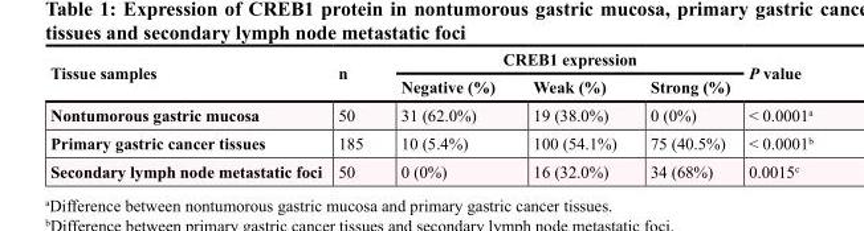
<table><thead><tr><td rowspan="2">Tissue samples</td><td rowspan="2">n</td><td colspan="3">CREB1 expression</td><td rowspan="2">P value</td></tr><tr><td>Negative (%)</td><td>Weak (%)</td><td>Strong (%)</td></tr></thead><tbody><tr><td>Nontumorous gastric mucosa</td><td>50</td><td>31 (62.0%)</td><td>19 (38.0%)</td><td>0 (0%)</td><td>&lt; 0.0001<sup>a</sup></td></tr><tr><td>Primary gastric cancer tissues</td><td>185</td><td>10 (5.4%)</td><td>100 (54.1%)</td><td>75 (40.5%)</td><td>&lt; 0.0001<sup>b</sup></td></tr><tr><td>Secondary lymph node metastatic foci</td><td>50</td><td>0 (0%)</td><td>16 (32.0%)</td><td>34 (68%)</td><td>0.0015<sup>c</sup></td></tr></tbody></table>